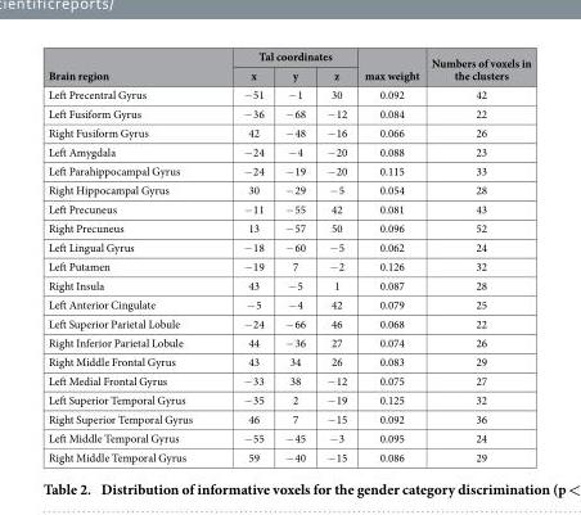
<table><thead><tr><td rowspan="2">Brain region</td><td colspan="3">Tal coordinates</td><td rowspan="2">max weight</td><td rowspan="2">Numbers of voxels in the clusters</td></tr><tr><td>x</td><td>y</td><td>z</td></tr></thead><tbody><tr><td>Left Precentral Gyrus</td><td>− 51</td><td>− 1</td><td>30</td><td>0.092</td><td>42</td></tr><tr><td>Left Fusiform Gyrus</td><td>− 36</td><td>− 68</td><td>− 12</td><td>0.084</td><td>22</td></tr><tr><td>Right Fusiform Gyrus</td><td>42</td><td>− 48</td><td>− 16</td><td>0.066</td><td>26</td></tr><tr><td>Left Amygdala</td><td>− 24</td><td>− 4</td><td>− 20</td><td>0.088</td><td>23</td></tr><tr><td>Left Parahippocampal Gyrus</td><td>− 24</td><td>− 19</td><td>− 20</td><td>0.115</td><td>33</td></tr><tr><td>Right Hippocampal Gyrus</td><td>30</td><td>− 29</td><td>− 5</td><td>0.054</td><td>28</td></tr><tr><td>Left Precuneus</td><td>− 11</td><td>− 55</td><td>42</td><td>0.081</td><td>43</td></tr><tr><td>Right Precuneus</td><td>13</td><td>− 57</td><td>50</td><td>0.096</td><td>52</td></tr><tr><td>Left Lingual Gyrus</td><td>− 18</td><td>− 60</td><td>− 5</td><td>0.062</td><td>24</td></tr><tr><td>Left Putamen</td><td>− 19</td><td>7</td><td>− 2</td><td>0.126</td><td>32</td></tr><tr><td>Right Insula</td><td>43</td><td>− 5</td><td>1</td><td>0.087</td><td>28</td></tr><tr><td>Left Anterior Cingulate</td><td>− 5</td><td>− 4</td><td>42</td><td>0.079</td><td>25</td></tr><tr><td>Left Superior Parietal Lobule</td><td>− 24</td><td>− 66</td><td>46</td><td>0.068</td><td>22</td></tr><tr><td>Right Inferior Parietal Lobule</td><td>44</td><td>− 36</td><td>27</td><td>0.074</td><td>26</td></tr><tr><td>Right Middle Frontal Gyrus</td><td>43</td><td>34</td><td>26</td><td>0.083</td><td>29</td></tr><tr><td>Left Medial Frontal Gyrus</td><td>− 33</td><td>38</td><td>− 12</td><td>0.075</td><td>27</td></tr><tr><td>Left Superior Temporal Gyrus</td><td>− 35</td><td>2</td><td>− 19</td><td>0.125</td><td>32</td></tr><tr><td>Right Superior Temporal Gyrus</td><td>46</td><td>7</td><td>− 15</td><td>0.092</td><td>36</td></tr><tr><td>Left Middle Temporal Gyrus</td><td>− 55</td><td>− 45</td><td>− 3</td><td>0.095</td><td>24</td></tr><tr><td>Right Middle Temporal Gyrus</td><td>59</td><td>− 40</td><td>− 15</td><td>0.086</td><td>29</td></tr></tbody></table>